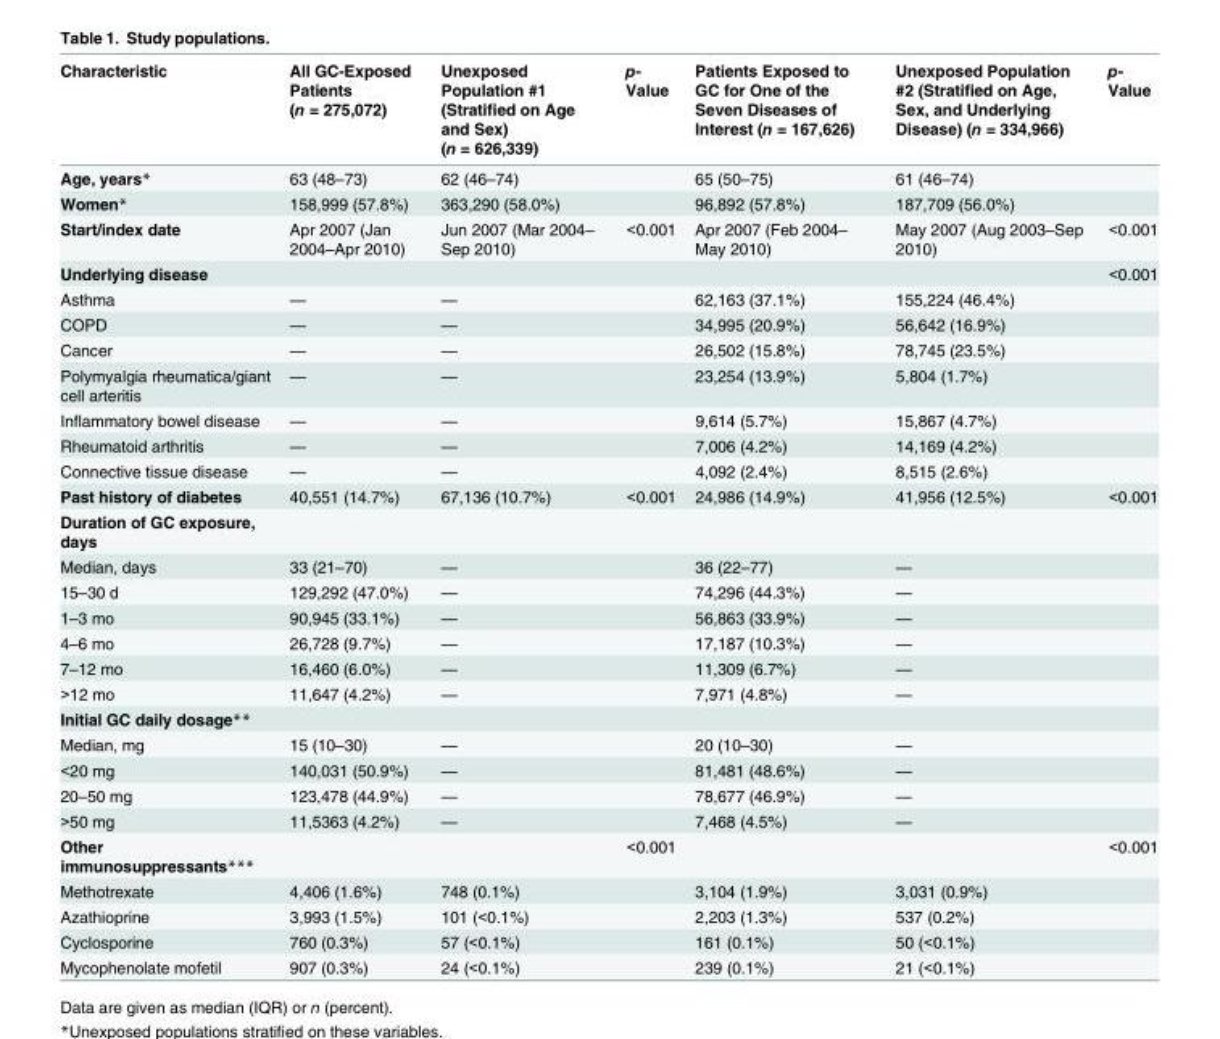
<table><thead><tr><td>Characteristic</td><td>All GC-Exposed Patients (n = 275,072)</td><td>Unexposed Population #1 (Stratified on Age and Sex) (n = 626,339)</td><td>p- Value</td><td>Patients Exposed to GC for One of the Seven Diseases of Interest (n = 167,626)</td><td>Unexposed Population #2 (Stratified on Age, Sex, and Underlying Disease) (n = 334,966)</td><td>p- Value</td></tr></thead><tbody><tr><td>Age, years*</td><td>63 (48–73)</td><td>62 (46–74)</td><td></td><td>65 (50–75)</td><td>61 (46–74)</td><td></td></tr><tr><td>Women*</td><td>158,999 (57.8%)</td><td>363,290 (58.0%)</td><td></td><td>96,892 (57.8%)</td><td>187,709 (56.0%)</td><td></td></tr><tr><td>Start/index date</td><td>Apr 2007 (Jan 2004–Apr 2010)</td><td>Jun 2007 (Mar 2004– Sep 2010)</td><td>&lt;0.001</td><td>Apr 2007 (Feb 2004– May 2010)</td><td>May 2007 (Aug 2003–Sep 2010)</td><td>&lt;0.001</td></tr><tr><td>Underlying disease</td><td></td><td></td><td></td><td></td><td></td><td>&lt;0.001</td></tr><tr><td>Asthma</td><td>—</td><td>—</td><td></td><td>62,163 (37.1%)</td><td>155,224 (46.4%)</td><td></td></tr><tr><td>COPD</td><td>—</td><td>—</td><td></td><td>34,995 (20.9%)</td><td>56,642 (16.9%)</td><td></td></tr><tr><td>Cancer</td><td>—</td><td>—</td><td></td><td>26,502 (15.8%)</td><td>78,745 (23.5%)</td><td></td></tr><tr><td>Polymyalgia rheumatica/giant cell arteritis</td><td>—</td><td>—</td><td></td><td>23,254 (13.9%)</td><td>5,804 (1.7%)</td><td></td></tr><tr><td>Inflammatory bowel disease</td><td>—</td><td>—</td><td></td><td>9,614 (5.7%)</td><td>15,867 (4.7%)</td><td></td></tr><tr><td>Rheumatoid arthritis</td><td>—</td><td>—</td><td></td><td>7,006 (4.2%)</td><td>14,169 (4.2%)</td><td></td></tr><tr><td>Connective tissue disease</td><td>—</td><td>—</td><td></td><td>4,092 (2.4%)</td><td>8,515 (2.6%)</td><td></td></tr><tr><td>Past history of diabetes</td><td>40,551 (14.7%)</td><td>67,136 (10.7%)</td><td>&lt;0.001</td><td>24,986 (14.9%)</td><td>41,956 (12.5%)</td><td>&lt;0.001</td></tr><tr><td colspan="7">Duration of GC exposure, days</td></tr><tr><td>Median, days</td><td>33 (21–70)</td><td>—</td><td></td><td>36 (22–77)</td><td>—</td><td></td></tr><tr><td>15–30 d</td><td>129,292 (47.0%)</td><td>—</td><td></td><td>74,296 (44.3%)</td><td>—</td><td></td></tr><tr><td>1–3 mo</td><td>90,945 (33.1%)</td><td>—</td><td></td><td>56,863 (33.9%)</td><td>—</td><td></td></tr><tr><td>4–6 mo</td><td>26,728 (9.7%)</td><td>—</td><td></td><td>17,187 (10.3%)</td><td>—</td><td></td></tr><tr><td>7–12 mo</td><td>16,460 (6.0%)</td><td>—</td><td></td><td>11,309 (6.7%)</td><td>—</td><td></td></tr><tr><td>&gt;12 mo</td><td>11,647 (4.2%)</td><td>—</td><td></td><td>7,971 (4.8%)</td><td>—</td><td></td></tr><tr><td colspan="7">Initial GC daily dosage**</td></tr><tr><td>Median, mg</td><td>15 (10–30)</td><td>—</td><td></td><td>20 (10–30)</td><td>—</td><td></td></tr><tr><td>&lt;20 mg</td><td>140,031 (50.9%)</td><td>—</td><td></td><td>81,481 (48.6%)</td><td>—</td><td></td></tr><tr><td>20–50 mg</td><td>123,478 (44.9%)</td><td>—</td><td></td><td>78,677 (46.9%)</td><td>—</td><td></td></tr><tr><td>&gt;50 mg</td><td>11,5363 (4.2%)</td><td>—</td><td></td><td>7,468 (4.5%)</td><td>—</td><td></td></tr><tr><td>Other immunosuppressants***</td><td></td><td></td><td>&lt;0.001</td><td></td><td></td><td>&lt;0.001</td></tr><tr><td>Methotrexate</td><td>4,406 (1.6%)</td><td>748 (0.1%)</td><td></td><td>3,104 (1.9%)</td><td>3,031 (0.9%)</td><td></td></tr><tr><td>Azathioprine</td><td>3,993 (1.5%)</td><td>101 (&lt;0.1%)</td><td></td><td>2,203 (1.3%)</td><td>537 (0.2%)</td><td></td></tr><tr><td>Cyclosporine</td><td>760 (0.3%)</td><td>57 (&lt;0.1%)</td><td></td><td>161 (0.1%)</td><td>50 (&lt;0.1%)</td><td></td></tr><tr><td>Mycophenolate mofetil</td><td>907 (0.3%)</td><td>24 (&lt;0.1%)</td><td></td><td>239 (0.1%)</td><td>21 (&lt;0.1%)</td><td></td></tr></tbody></table>